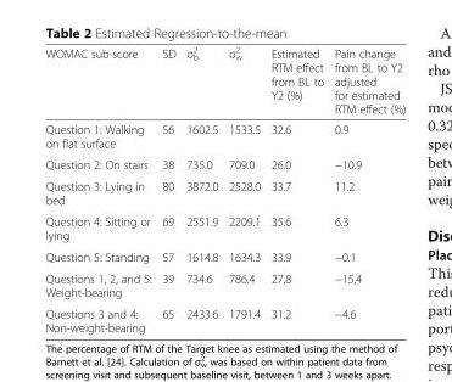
<table><thead><tr><td>WOMAC sub-score</td><td>SD</td><td>σ<sup>2</sup> <sub>b</sub></td><td>σ<sup>2</sup> <sub>w</sub></td><td>Estimated RTM effect from BL to Y2 (%)</td><td>Pain change from BL to Y2 adjusted for estimated RTM effect (%)</td></tr></thead><tbody><tr><td>Question 1: Walking on flat surface</td><td>56</td><td>1602.5</td><td>1533.5</td><td>32.6</td><td>0.9</td></tr><tr><td>Question 2: On stairs</td><td>38</td><td>735.0</td><td>709.0</td><td>26.0</td><td>−10.9</td></tr><tr><td>Question 3: Lying in bed</td><td>80</td><td>3872.0</td><td>2528.0</td><td>33.7</td><td>11.2</td></tr><tr><td>Question 4: Sitting or lying</td><td>69</td><td>2551.9</td><td>2209.1</td><td>35.6</td><td>6.3</td></tr><tr><td>Question 5: Standing</td><td>57</td><td>1614.8</td><td>1634.3</td><td>33.9</td><td>−0.1</td></tr><tr><td>Questions 1, 2, and 5: Weight-bearing</td><td>39</td><td>734.6</td><td>786.4</td><td>27.8</td><td>−15,4</td></tr><tr><td>Questions 3 and 4: Non-weight-bearing</td><td>65</td><td>2433.6</td><td>1791.4</td><td>31.2</td><td>−4.6</td></tr></tbody></table>